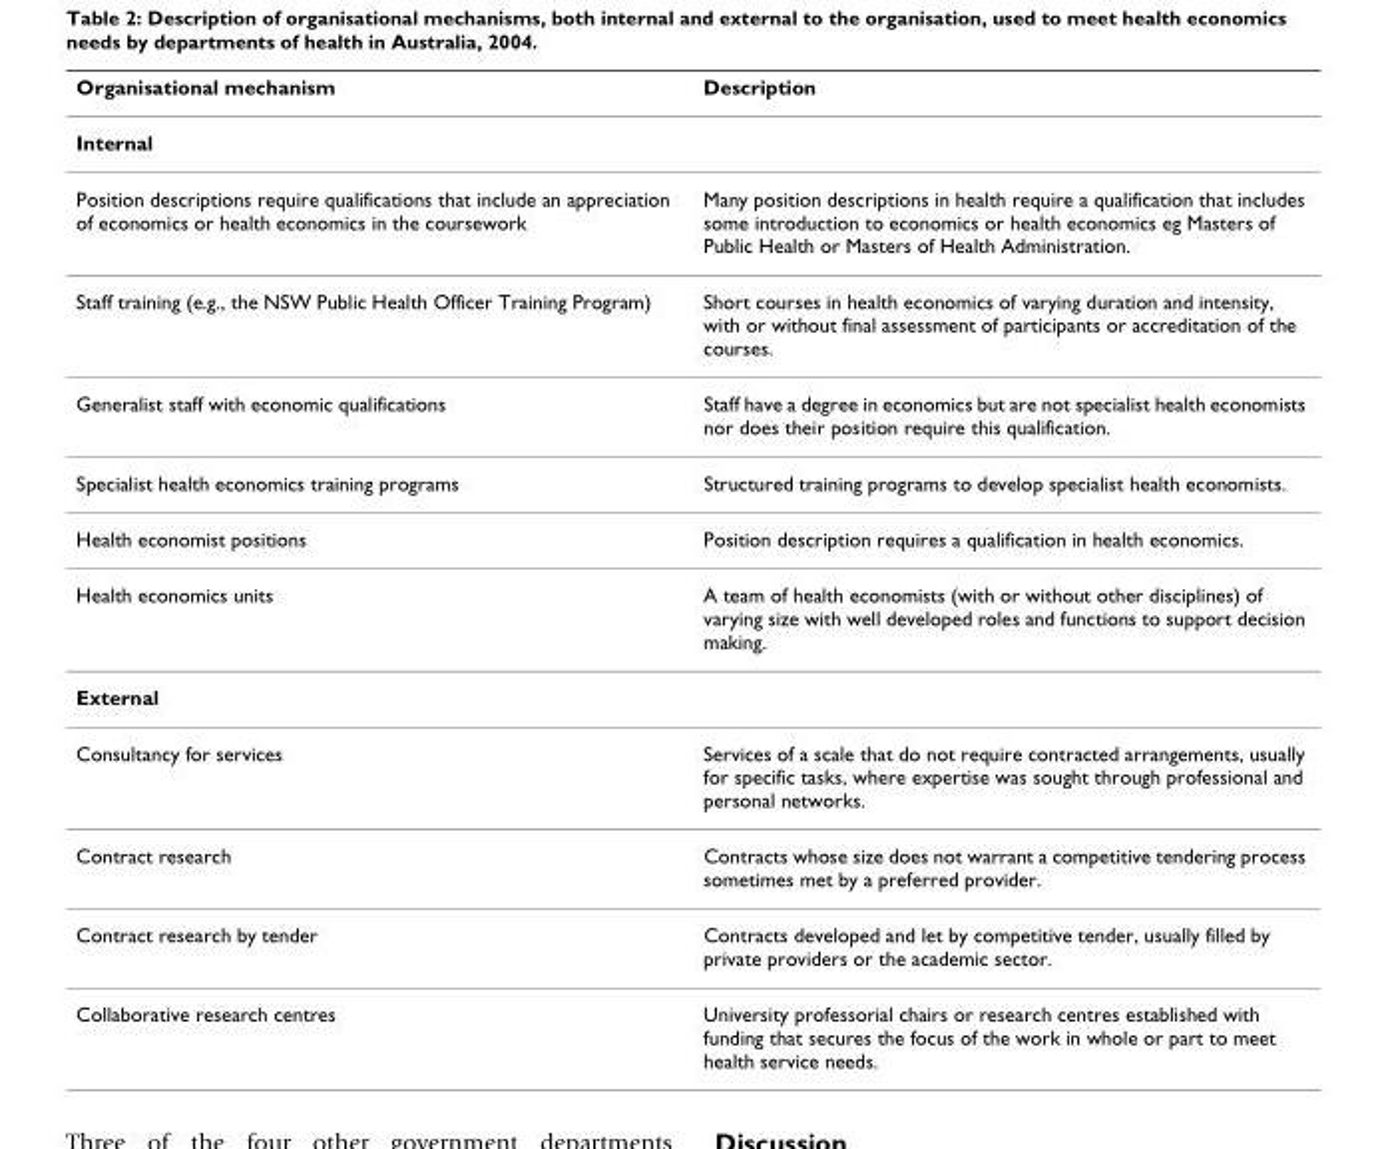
<table><thead><tr><td>Organisational mechanism</td><td>Description</td></tr></thead><tbody><tr><td colspan="2">Internal</td></tr><tr><td>Position descriptions require qualifications that include an appreciation of economics or health economics in the coursework</td><td>Many position descriptions in health require a qualification that includes some introduction to economics or health economics eg Masters of Public Health or Masters of Health Administration.</td></tr><tr><td>Staff training (e.g., the NSW Public Health Officer Training Program)</td><td>Short courses in health economics of varying duration and intensity, with or without final assessment of participants or accreditation of the courses.</td></tr><tr><td>Generalist staff with economic qualifications</td><td>Staff have a degree in economics but are not specialist health economists nor does their position require this qualification.</td></tr><tr><td>Specialist health economics training programs</td><td>Structured training programs to develop specialist health economists.</td></tr><tr><td>Health economist positions</td><td>Position description requires a qualification in health economics.</td></tr><tr><td>Health economics units</td><td>A team of health economists (with or without other disciplines) of varying size with well developed roles and functions to support decision making.</td></tr><tr><td colspan="2">External</td></tr><tr><td>Consultancy for services</td><td>Services of a scale that do not require contracted arrangements, usually for specific tasks, where expertise was sought through professional and personal networks.</td></tr><tr><td>Contract research</td><td>Contracts whose size does not warrant a competitive tendering process sometimes met by a preferred provider.</td></tr><tr><td>Contract research by tender</td><td>Contracts developed and let by competitive tender, usually filled by private providers or the academic sector.</td></tr><tr><td>Collaborative research centres</td><td>University professorial chairs or research centres established with funding that secures the focus of the work in whole or part to meet health service needs.</td></tr></tbody></table>